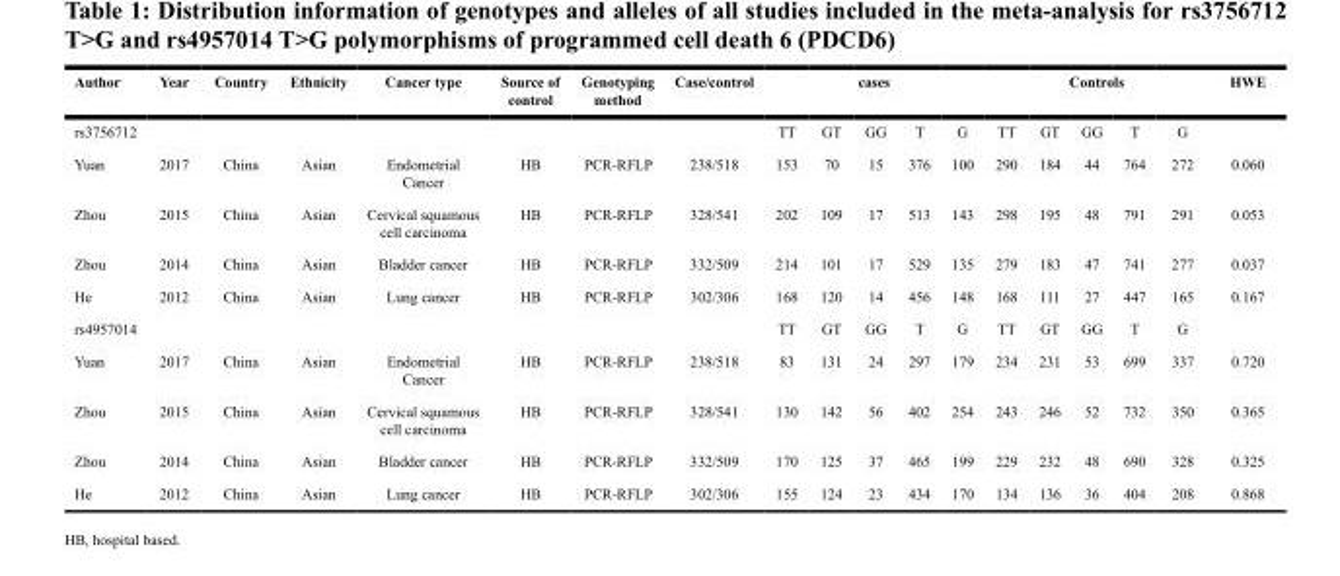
<table><thead><tr><td rowspan="2">Author rs3756712</td><td rowspan="2">Year</td><td rowspan="2">Country</td><td rowspan="2">Ethnicity</td><td rowspan="2">Cancer type</td><td rowspan="2">Source of control</td><td rowspan="2">Genotyping method</td><td rowspan="2">Case/control</td><td colspan="5">cases</td><td colspan="5">Controls</td><td rowspan="2">HWE</td></tr><tr><td>TT</td><td>GT</td><td>GG</td><td>T</td><td>G</td><td>TT</td><td>GT</td><td>GG</td><td>T</td><td>G</td></tr></thead><tbody><tr><td>Yuan</td><td>2017</td><td>China</td><td>Asian</td><td>Endometrial Cancer</td><td>HB</td><td>PCR-RFLP</td><td>238/518</td><td>153</td><td>70</td><td>15</td><td>376</td><td>100</td><td>290</td><td>184</td><td>44</td><td>764</td><td>272</td><td>0.060</td></tr><tr><td>Zhou</td><td>2015</td><td>China</td><td>Asian</td><td>Cervical squamous cell carcinoma</td><td>HB</td><td>PCR-RFLP</td><td>328/541</td><td>202</td><td>109</td><td>17</td><td>513</td><td>143</td><td>298</td><td>195</td><td>48</td><td>791</td><td>291</td><td>0.053</td></tr><tr><td>Zhou</td><td>2014</td><td>China</td><td>Asian</td><td>Bladder cancer</td><td>HB</td><td>PCR-RFLP</td><td>332/509</td><td>214</td><td>101</td><td>17</td><td>529</td><td>135</td><td>279</td><td>183</td><td>47</td><td>741</td><td>277</td><td>0.037</td></tr><tr><td>He</td><td>2012</td><td>China</td><td>Asian</td><td>Lung cancer</td><td>HB</td><td>PCR-RFLP</td><td>302/306</td><td>168</td><td>120</td><td>14</td><td>456</td><td>148</td><td>168</td><td>111</td><td>27</td><td>447</td><td>165</td><td>0.167</td></tr><tr><td>rs4957014</td><td></td><td></td><td></td><td></td><td></td><td></td><td></td><td>TT</td><td>GT</td><td>GG</td><td>T</td><td>G</td><td>TT</td><td>GT</td><td>GG</td><td>T</td><td>G</td><td></td></tr><tr><td>Yuan</td><td>2017</td><td>China</td><td>Asian</td><td>Endometrial Cancer</td><td>HB</td><td>PCR-RFLP</td><td>238/518</td><td>83</td><td>131</td><td>24</td><td>297</td><td>179</td><td>234</td><td>231</td><td>53</td><td>699</td><td>337</td><td>0.720</td></tr><tr><td>Zhou</td><td>2015</td><td>China</td><td>Asian</td><td>Cervical squamous cell carcinoma</td><td>HB</td><td>PCR-RFLP</td><td>328/541</td><td>130</td><td>142</td><td>56</td><td>402</td><td>254</td><td>243</td><td>246</td><td>52</td><td>732</td><td>350</td><td>0.365</td></tr><tr><td>Zhou</td><td>2014</td><td>China</td><td>Asian</td><td>Bladder cancer</td><td>HB</td><td>PCR-RFLP</td><td>332/509</td><td>170</td><td>125</td><td>37</td><td>465</td><td>199</td><td>229</td><td>232</td><td>48</td><td>690</td><td>328</td><td>0.325</td></tr><tr><td>He</td><td>2012</td><td>China</td><td>Asian</td><td>Lung cancer</td><td>HB</td><td>PCR-RFLP</td><td>302/306</td><td>155</td><td>124</td><td>23</td><td>434</td><td>170</td><td>134</td><td>136</td><td>36</td><td>404</td><td>208</td><td>0.868</td></tr></tbody></table>